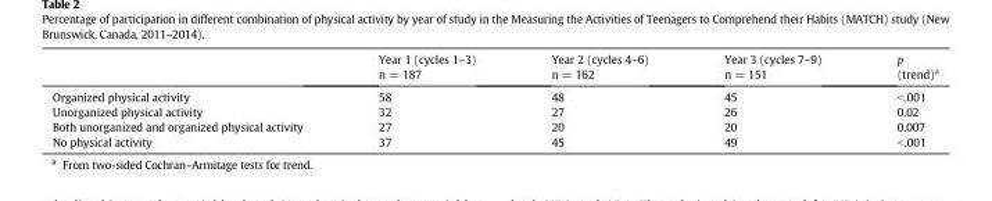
<table><thead><tr><td></td><td>Year 1 (cycles 1–3) n = 187</td><td>Year 2 (cycles 4–6) n = 162</td><td>Year 3 (cycles 7–9) n = 151</td><td>p (trend)<sup>a</sup></td></tr></thead><tbody><tr><td>Organized physical activity</td><td>58</td><td>48</td><td>45</td><td>&lt;.001</td></tr><tr><td>Unorganized physical activity</td><td>32</td><td>27</td><td>26</td><td>0.02</td></tr><tr><td>Both unorganized and organized physical activity</td><td>27</td><td>20</td><td>20</td><td>0.007</td></tr><tr><td>No physical activity</td><td>37</td><td>45</td><td>49</td><td>&lt;.001</td></tr></tbody></table>